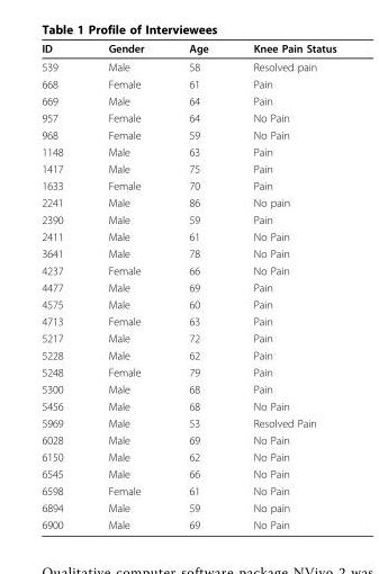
<table><thead><tr><td>ID</td><td>Gender</td><td>Age</td><td>Knee Pain Status</td></tr></thead><tbody><tr><td>539</td><td>Male</td><td>58</td><td>Resolved pain</td></tr><tr><td>668</td><td>Female</td><td>61</td><td>Pain</td></tr><tr><td>669</td><td>Male</td><td>64</td><td>Pain</td></tr><tr><td>957</td><td>Female</td><td>64</td><td>No Pain</td></tr><tr><td>968</td><td>Female</td><td>59</td><td>No Pain</td></tr><tr><td>1148</td><td>Male</td><td>63</td><td>Pain</td></tr><tr><td>1417</td><td>Male</td><td>75</td><td>Pain</td></tr><tr><td>1633</td><td>Female</td><td>70</td><td>Pain</td></tr><tr><td>2241</td><td>Male</td><td>86</td><td>No pain</td></tr><tr><td>2390</td><td>Male</td><td>59</td><td>Pain</td></tr><tr><td>2411</td><td>Male</td><td>61</td><td>No Pain</td></tr><tr><td>3641</td><td>Male</td><td>78</td><td>No Pain</td></tr><tr><td>4237</td><td>Female</td><td>66</td><td>No Pain</td></tr><tr><td>4477</td><td>Male</td><td>69</td><td>Pain</td></tr><tr><td>4575</td><td>Male</td><td>60</td><td>Pain</td></tr><tr><td>4713</td><td>Female</td><td>63</td><td>Pain</td></tr><tr><td>5217</td><td>Male</td><td>72</td><td>Pain</td></tr><tr><td>5228</td><td>Male</td><td>62</td><td>Pain</td></tr><tr><td>5248</td><td>Female</td><td>79</td><td>Pain</td></tr><tr><td>5300</td><td>Male</td><td>68</td><td>Pain</td></tr><tr><td>5456</td><td>Male</td><td>68</td><td>No Pain</td></tr><tr><td>5969</td><td>Male</td><td>53</td><td>Resolved Pain</td></tr><tr><td>6028</td><td>Male</td><td>69</td><td>No Pain</td></tr><tr><td>6150</td><td>Male</td><td>62</td><td>No Pain</td></tr><tr><td>6545</td><td>Male</td><td>66</td><td>No Pain</td></tr><tr><td>6598</td><td>Female</td><td>61</td><td>No Pain</td></tr><tr><td>6894</td><td>Male</td><td>59</td><td>No pain</td></tr><tr><td>6900</td><td>Male</td><td>69</td><td>No Pain</td></tr></tbody></table>